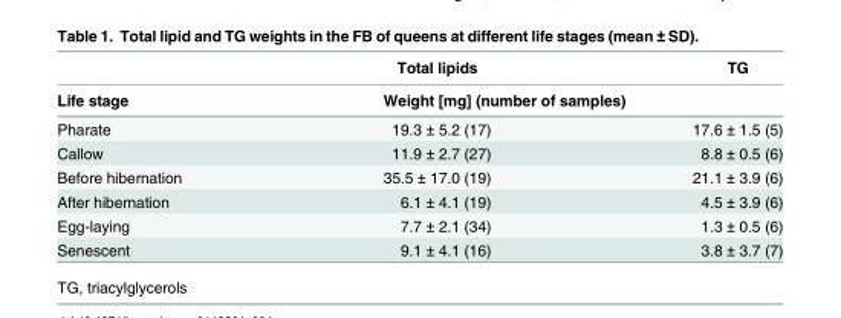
<table><thead><tr><td rowspan="2">Life stage</td><td>Total lipids</td><td>TG</td></tr><tr><td colspan="2">Weight [mg] (number of samples)</td></tr></thead><tbody><tr><td>Pharate</td><td>19.3 ± 5.2 (17)</td><td>17.6 ± 1.5 (5)</td></tr><tr><td>Callow</td><td>11.9 ± 2.7 (27)</td><td>8.8 ± 0.5 (6)</td></tr><tr><td>Before hibernation</td><td>35.5 ± 17.0 (19)</td><td>21.1 ± 3.9 (6)</td></tr><tr><td>After hibernation</td><td>6.1 ± 4.1 (19)</td><td>4.5 ± 3.9 (6)</td></tr><tr><td>Egg-laying</td><td>7.7 ± 2.1 (34)</td><td>1.3 ± 0.5 (6)</td></tr><tr><td>Senescent</td><td>9.1 ± 4.1 (16)</td><td>3.8 ± 3.7 (7)</td></tr></tbody></table>